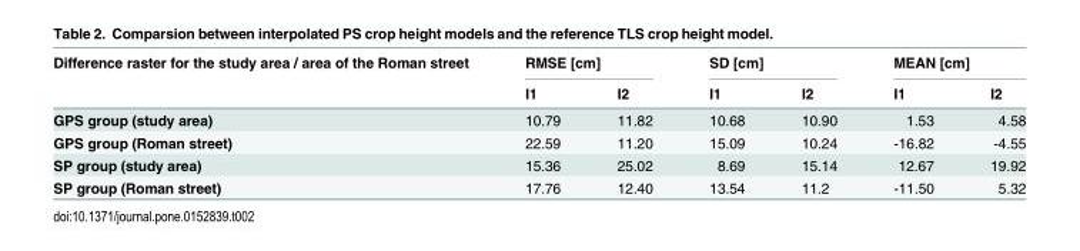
<table><thead><tr><td rowspan="2">Difference raster for the study area / area of the Roman street</td><td colspan="2">RMSE [cm]</td><td colspan="2">SD [cm]</td><td colspan="2">MEAN [cm]</td></tr><tr><td>I1</td><td>I2</td><td>I1</td><td>I2</td><td>I1</td><td>I2</td></tr></thead><tbody><tr><td>GPS group (study area)</td><td>10.79</td><td>11.82</td><td>10.68</td><td>10.90</td><td>1.53</td><td>4.58</td></tr><tr><td>GPS group (Roman street)</td><td>22.59</td><td>11.20</td><td>15.09</td><td>10.24</td><td>-16.82</td><td>-4.55</td></tr><tr><td>SP group (study area)</td><td>15.36</td><td>25.02</td><td>8.69</td><td>15.14</td><td>12.67</td><td>19.92</td></tr><tr><td>SP group (Roman street)</td><td>17.76</td><td>12.40</td><td>13.54</td><td>11.2</td><td>-11.50</td><td>5.32</td></tr></tbody></table>